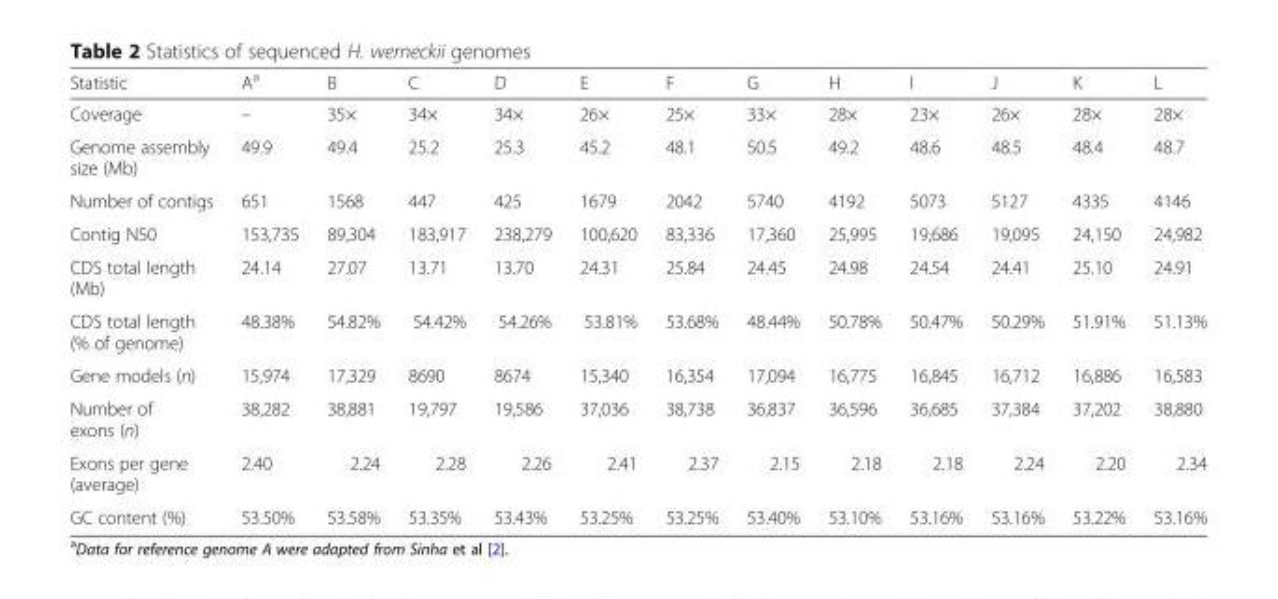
<table><thead><tr><td>Statistic</td><td>A<sup>a</sup></td><td>B</td><td>C</td><td>D</td><td>E</td><td>F</td><td>G</td><td>H</td><td>I</td><td>J</td><td>K</td><td>L</td></tr></thead><tbody><tr><td>Coverage</td><td>–</td><td>35×</td><td>34×</td><td>34×</td><td>26×</td><td>25×</td><td>33×</td><td>28×</td><td>23×</td><td>26×</td><td>28×</td><td>28×</td></tr><tr><td>Genome assembly size (Mb)</td><td>49.9</td><td>49.4</td><td>25.2</td><td>25.3</td><td>45.2</td><td>48.1</td><td>50.5</td><td>49.2</td><td>48.6</td><td>48.5</td><td>48.4</td><td>48.7</td></tr><tr><td>Number of contigs</td><td>651</td><td>1568</td><td>447</td><td>425</td><td>1679</td><td>2042</td><td>5740</td><td>4192</td><td>5073</td><td>5127</td><td>4335</td><td>4146</td></tr><tr><td>Contig N50</td><td>153,735</td><td>89,304</td><td>183,917</td><td>238,279</td><td>100,620</td><td>83,336</td><td>17,360</td><td>25,995</td><td>19,686</td><td>19,095</td><td>24,150</td><td>24,982</td></tr><tr><td>CDS total length (Mb)</td><td>24.14</td><td>27.07</td><td>13.71</td><td>13.70</td><td>24.31</td><td>25.84</td><td>24.45</td><td>24.98</td><td>24.54</td><td>24.41</td><td>25.10</td><td>24.91</td></tr><tr><td>CDS total length (% of genome)</td><td>48.38%</td><td>54.82%</td><td>54.42%</td><td>54.26%</td><td>53.81%</td><td>53.68%</td><td>48.44%</td><td>50.78%</td><td>50.47%</td><td>50.29%</td><td>51.91%</td><td>51.13%</td></tr><tr><td>Gene models (n)</td><td>15,974</td><td>17,329</td><td>8690</td><td>8674</td><td>15,340</td><td>16,354</td><td>17,094</td><td>16,775</td><td>16,845</td><td>16,712</td><td>16,886</td><td>16,583</td></tr><tr><td>Number of exons (n)</td><td>38,282</td><td>38,881</td><td>19,797</td><td>19,586</td><td>37,036</td><td>38,738</td><td>36,837</td><td>36,596</td><td>36,685</td><td>37,384</td><td>37,202</td><td>38,880</td></tr><tr><td>Exons per gene (average)</td><td>2.40</td><td>2.24</td><td>2.28</td><td>2.26</td><td>2.41</td><td>2.37</td><td>2.15</td><td>2.18</td><td>2.18</td><td>2.24</td><td>2.20</td><td>2.34</td></tr><tr><td>GC content (%)</td><td>53.50%</td><td>53.58%</td><td>53.35%</td><td>53.43%</td><td>53.25%</td><td>53.25%</td><td>53.40%</td><td>53.10%</td><td>53.16%</td><td>53.16%</td><td>53.22%</td><td>53.16%</td></tr></tbody></table>